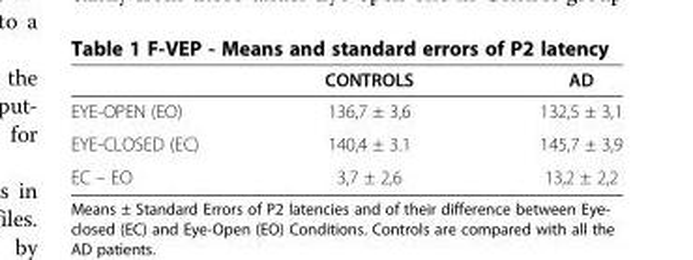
<table><thead><tr><td></td><td>CONTROLS</td><td>AD</td></tr></thead><tbody><tr><td>EYE-OPEN (EO)</td><td>136,7 ± 3,6</td><td>132,5 ± 3,1</td></tr><tr><td>EYE-CLOSED (EC)</td><td>140,4 ± 3.1</td><td>145,7 ± 3,9</td></tr><tr><td>EC – EO</td><td>3,7 ± 2,6</td><td>13,2 ± 2,2</td></tr></tbody></table>